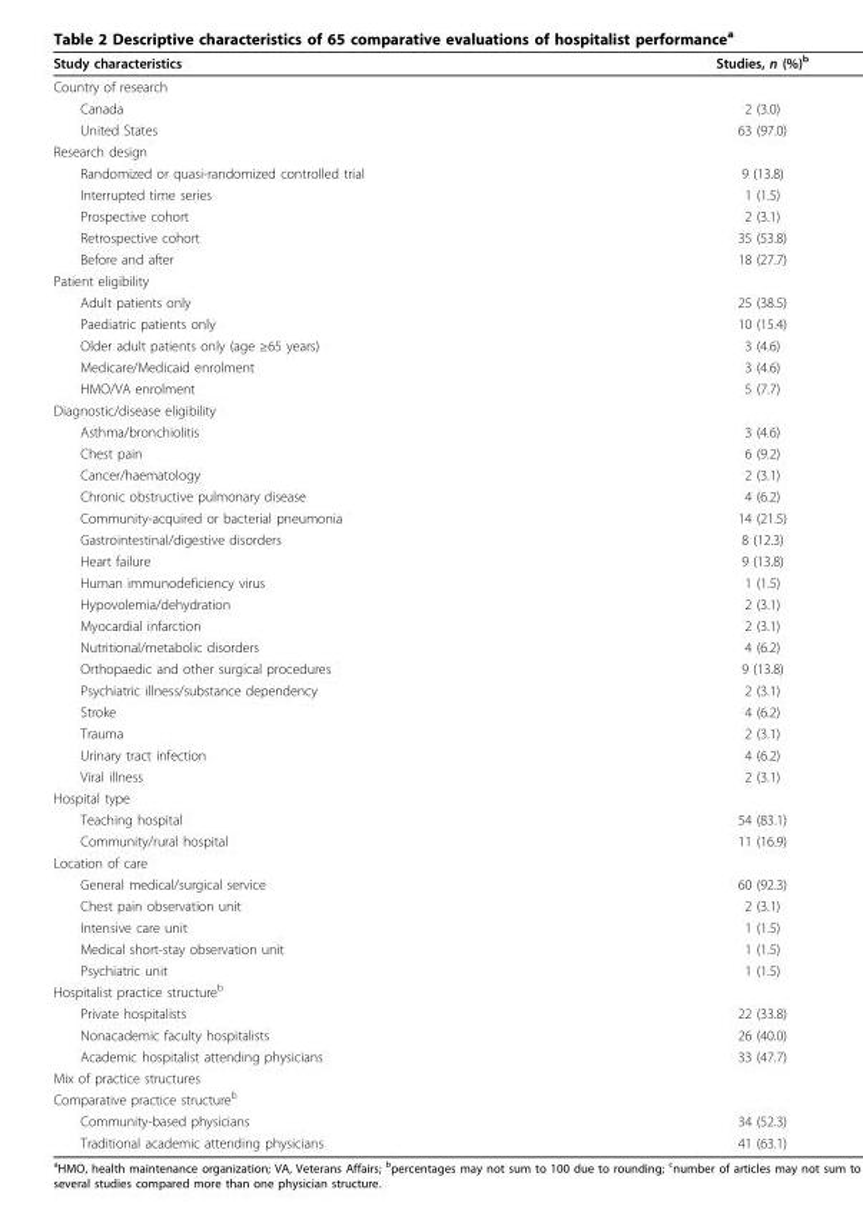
<table><thead><tr><td>Study characteristics</td><td>Studies, n (%)<sup>b</sup></td></tr></thead><tbody><tr><td colspan="2">Country of research</td></tr><tr><td>Canada</td><td>2 (3.0)</td></tr><tr><td>United States</td><td>63 (97.0)</td></tr><tr><td colspan="2">Research design</td></tr><tr><td>Randomized or quasi-randomized controlled trial</td><td>9 (13.8)</td></tr><tr><td>Interrupted time series</td><td>1 (1.5)</td></tr><tr><td>Prospective cohort</td><td>2 (3.1)</td></tr><tr><td>Retrospective cohort</td><td>35 (53.8)</td></tr><tr><td>Before and after</td><td>18 (27.7)</td></tr><tr><td colspan="2">Patient eligibility</td></tr><tr><td>Adult patients only</td><td>25 (38.5)</td></tr><tr><td>Paediatric patients only</td><td>10 (15.4)</td></tr><tr><td>Older adult patients only (age ≥65 years)</td><td>3 (4.6)</td></tr><tr><td>Medicare/Medicaid enrolment</td><td>3 (4.6)</td></tr><tr><td>HMO/VA enrolment</td><td>5 (7.7)</td></tr><tr><td colspan="2">Diagnostic/disease eligibility</td></tr><tr><td>Asthma/bronchiolitis</td><td>3 (4.6)</td></tr><tr><td>Chest pain</td><td>6 (9.2)</td></tr><tr><td>Cancer/haematology</td><td>2 (3.1)</td></tr><tr><td>Chronic obstructive pulmonary disease</td><td>4 (6.2)</td></tr><tr><td>Community-acquired or bacterial pneumonia</td><td>14 (21.5)</td></tr><tr><td>Gastrointestinal/digestive disorders</td><td>8 (12.3)</td></tr><tr><td>Heart failure</td><td>9 (13.8)</td></tr><tr><td>Human immunodeficiency virus</td><td>1 (1.5)</td></tr><tr><td>Hypovolemia/dehydration</td><td>2 (3.1)</td></tr><tr><td>Myocardial infarction</td><td>2 (3.1)</td></tr><tr><td>Nutritional/metabolic disorders</td><td>4 (6.2)</td></tr><tr><td>Orthopaedic and other surgical procedures</td><td>9 (13.8)</td></tr><tr><td>Psychiatric illness/substance dependency</td><td>2 (3.1)</td></tr><tr><td>Stroke</td><td>4 (6.2)</td></tr><tr><td>Trauma</td><td>2 (3.1)</td></tr><tr><td>Urinary tract infection</td><td>4 (6.2)</td></tr><tr><td>Viral illness</td><td>2 (3.1)</td></tr><tr><td colspan="2">Hospital type</td></tr><tr><td>Teaching hospital</td><td>54 (83.1)</td></tr><tr><td>Community/rural hospital</td><td>11 (16.9)</td></tr><tr><td colspan="2">Location of care</td></tr><tr><td>General medical/surgical service</td><td>60 (92.3)</td></tr><tr><td>Chest pain observation unit</td><td>2 (3.1)</td></tr><tr><td>Intensive care unit</td><td>1 (1.5)</td></tr><tr><td>Medical short-stay observation unit</td><td>1 (1.5)</td></tr><tr><td>Psychiatric unit</td><td>1 (1.5)</td></tr><tr><td colspan="2">Hospitalist practice structure<sup>b</sup></td></tr><tr><td>Private hospitalists</td><td>22 (33.8)</td></tr><tr><td>Nonacademic faculty hospitalists</td><td>26 (40.0)</td></tr><tr><td>Academic hospitalist attending physicians</td><td>33 (47.7)</td></tr><tr><td colspan="2">Mix of practice structures</td></tr><tr><td colspan="2">Comparative practice structure<sup>b</sup></td></tr><tr><td>Community-based physicians</td><td>34 (52.3)</td></tr><tr><td>Traditional academic attending physicians</td><td>41 (63.1)</td></tr></tbody></table>